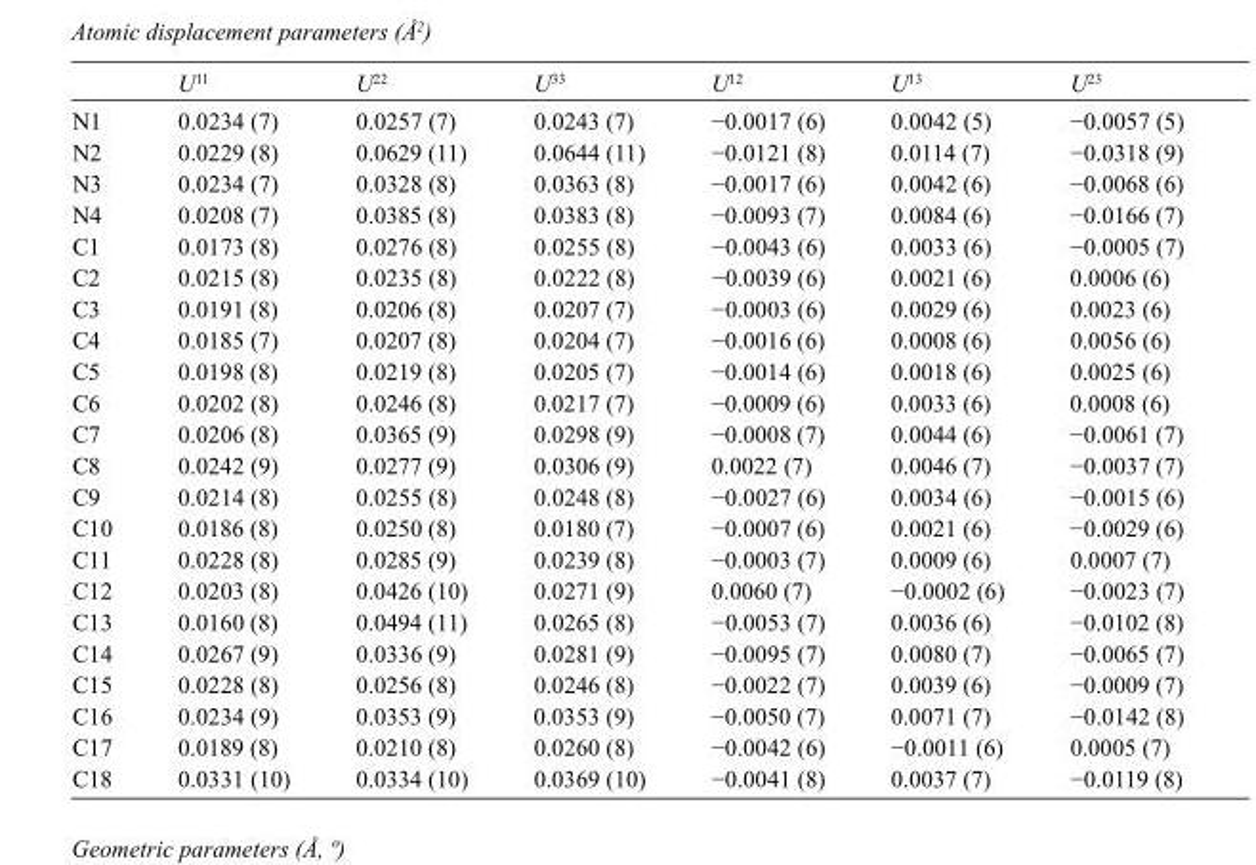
<table><thead><tr><td></td><td>U<sup>11</sup></td><td>U<sup>22</sup></td><td>U<sup>33</sup></td><td>U<sup>12</sup></td><td>U<sup>13</sup></td><td>U<sup>23</sup></td></tr></thead><tbody><tr><td>N1</td><td>0.0234 (7)</td><td>0.0257 (7)</td><td>0.0243 (7)</td><td>−0.0017 (6)</td><td>0.0042 (5)</td><td>−0.0057 (5)</td></tr><tr><td>N2</td><td>0.0229 (8)</td><td>0.0629 (11)</td><td>0.0644 (11)</td><td>−0.0121 (8)</td><td>0.0114 (7)</td><td>−0.0318 (9)</td></tr><tr><td>N3</td><td>0.0234 (7)</td><td>0.0328 (8)</td><td>0.0363 (8)</td><td>−0.0017 (6)</td><td>0.0042 (6)</td><td>−0.0068 (6)</td></tr><tr><td>N4</td><td>0.0208 (7)</td><td>0.0385 (8)</td><td>0.0383 (8)</td><td>−0.0093 (7)</td><td>0.0084 (6)</td><td>−0.0166 (7)</td></tr><tr><td>C1</td><td>0.0173 (8)</td><td>0.0276 (8)</td><td>0.0255 (8)</td><td>−0.0043 (6)</td><td>0.0033 (6)</td><td>−0.0005 (7)</td></tr><tr><td>C2</td><td>0.0215 (8)</td><td>0.0235 (8)</td><td>0.0222 (8)</td><td>−0.0039 (6)</td><td>0.0021 (6)</td><td>0.0006 (6)</td></tr><tr><td>C3</td><td>0.0191 (8)</td><td>0.0206 (8)</td><td>0.0207 (7)</td><td>−0.0003 (6)</td><td>0.0029 (6)</td><td>0.0023 (6)</td></tr><tr><td>C4</td><td>0.0185 (7)</td><td>0.0207 (8)</td><td>0.0204 (7)</td><td>−0.0016 (6)</td><td>0.0008 (6)</td><td>0.0056 (6)</td></tr><tr><td>C5</td><td>0.0198 (8)</td><td>0.0219 (8)</td><td>0.0205 (7)</td><td>−0.0014 (6)</td><td>0.0018 (6)</td><td>0.0025 (6)</td></tr><tr><td>C6</td><td>0.0202 (8)</td><td>0.0246 (8)</td><td>0.0217 (7)</td><td>−0.0009 (6)</td><td>0.0033 (6)</td><td>0.0008 (6)</td></tr><tr><td>C7</td><td>0.0206 (8)</td><td>0.0365 (9)</td><td>0.0298 (9)</td><td>−0.0008 (7)</td><td>0.0044 (6)</td><td>−0.0061 (7)</td></tr><tr><td>C8</td><td>0.0242 (9)</td><td>0.0277 (9)</td><td>0.0306 (9)</td><td>0.0022 (7)</td><td>0.0046 (7)</td><td>−0.0037 (7)</td></tr><tr><td>C9</td><td>0.0214 (8)</td><td>0.0255 (8)</td><td>0.0248 (8)</td><td>−0.0027 (6)</td><td>0.0034 (6)</td><td>−0.0015 (6)</td></tr><tr><td>C10</td><td>0.0186 (8)</td><td>0.0250 (8)</td><td>0.0180 (7)</td><td>−0.0007 (6)</td><td>0.0021 (6)</td><td>−0.0029 (6)</td></tr><tr><td>C11</td><td>0.0228 (8)</td><td>0.0285 (9)</td><td>0.0239 (8)</td><td>−0.0003 (7)</td><td>0.0009 (6)</td><td>0.0007 (7)</td></tr><tr><td>C12</td><td>0.0203 (8)</td><td>0.0426 (10)</td><td>0.0271 (9)</td><td>0.0060 (7)</td><td>−0.0002 (6)</td><td>−0.0023 (7)</td></tr><tr><td>C13</td><td>0.0160 (8)</td><td>0.0494 (11)</td><td>0.0265 (8)</td><td>−0.0053 (7)</td><td>0.0036 (6)</td><td>−0.0102 (8)</td></tr><tr><td>C14</td><td>0.0267 (9)</td><td>0.0336 (9)</td><td>0.0281 (9)</td><td>−0.0095 (7)</td><td>0.0080 (7)</td><td>−0.0065 (7)</td></tr><tr><td>C15</td><td>0.0228 (8)</td><td>0.0256 (8)</td><td>0.0246 (8)</td><td>−0.0022 (7)</td><td>0.0039 (6)</td><td>−0.0009 (7)</td></tr><tr><td>C16</td><td>0.0234 (9)</td><td>0.0353 (9)</td><td>0.0353 (9)</td><td>−0.0050 (7)</td><td>0.0071 (7)</td><td>−0.0142 (8)</td></tr><tr><td>C17</td><td>0.0189 (8)</td><td>0.0210 (8)</td><td>0.0260 (8)</td><td>−0.0042 (6)</td><td>−0.0011 (6)</td><td>0.0005 (7)</td></tr><tr><td>C18</td><td>0.0331 (10)</td><td>0.0334 (10)</td><td>0.0369 (10)</td><td>−0.0041 (8)</td><td>0.0037 (7)</td><td>−0.0119 (8)</td></tr></tbody></table>